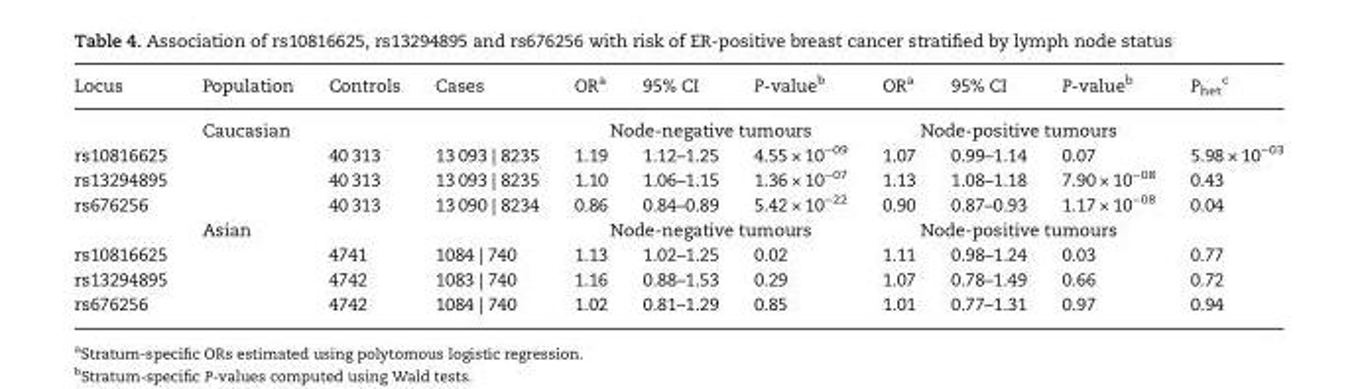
<table><thead><tr><td>Locus</td><td>Population</td><td>Controls</td><td>Cases</td><td>OR<sup>a</sup></td><td>95% CI</td><td>P-value<sup>b</sup></td><td>OR<sup>a</sup></td><td>95% CI</td><td>P-value<sup>b</sup></td><td>P<sub>het</sub> <sup>c</sup></td></tr></thead><tbody><tr><td></td><td>Caucasian</td><td></td><td></td><td colspan="3">Node-negative tumours</td><td colspan="3">Node-positive tumours</td><td></td></tr><tr><td>rs10816625</td><td></td><td>40 313</td><td>13 093 | 8235</td><td>1.19</td><td>1.12–1.25</td><td>4.55 × 10<sup>−09</sup></td><td>1.07</td><td>0.99–1.14</td><td>0.07</td><td>5.98 × 10<sup>−03</sup></td></tr><tr><td>rs13294895</td><td></td><td>40 313</td><td>13 093 | 8235</td><td>1.10</td><td>1.06–1.15</td><td>1.36 × 10<sup>−07</sup></td><td>1.13</td><td>1.08–1.18</td><td>7.90 × 10<sup>−08</sup></td><td>0.43</td></tr><tr><td rowspan="2">rs676256</td><td></td><td>40 313</td><td>13 090 | 8234</td><td>0.86</td><td>0.84–0.89</td><td>5.42 × 10<sup>−22</sup></td><td>0.90</td><td>0.87–0.93</td><td>1.17 × 10<sup>−08</sup></td><td>0.04</td></tr><tr><td>Asian</td><td></td><td></td><td colspan="3">Node-negative tumours</td><td colspan="3">Node-positive tumours</td><td></td></tr><tr><td>rs10816625</td><td></td><td>4741</td><td>1084 | 740</td><td>1.13</td><td>1.02–1.25</td><td>0.02</td><td>1.11</td><td>0.98–1.24</td><td>0.03</td><td>0.77</td></tr><tr><td>rs13294895</td><td></td><td>4742</td><td>1083 | 740</td><td>1.16</td><td>0.88–1.53</td><td>0.29</td><td>1.07</td><td>0.78–1.49</td><td>0.66</td><td>0.72</td></tr><tr><td>rs676256</td><td></td><td>4742</td><td>1084 | 740</td><td>1.02</td><td>0.81–1.29</td><td>0.85</td><td>1.01</td><td>0.77–1.31</td><td>0.97</td><td>0.94</td></tr></tbody></table>